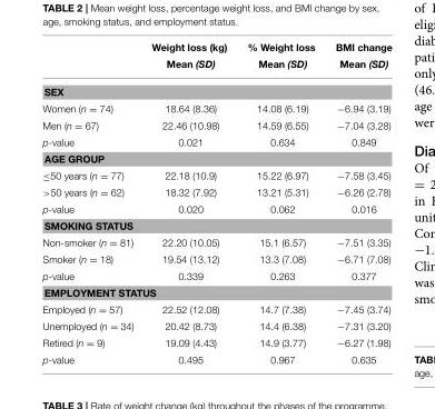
<table><thead><tr><td rowspan="2"></td><td rowspan="2">Weight loss (kg) Mean (SD)</td><td rowspan="2">% Weight loss Mean (SD)</td><td rowspan="2">BMI change Mean (SD)</td></tr><tr></tr></thead><tbody><tr><td colspan="4">SEX</td></tr><tr><td>Women (n = 74)</td><td>18.64 (8.36)</td><td>14.08 (6.19)</td><td>−6.94 (3.19)</td></tr><tr><td>Men (n = 67)</td><td>22.46 (10.98)</td><td>14.59 (6.55)</td><td>−7.04 (3.28)</td></tr><tr><td>p-value</td><td>0.021</td><td>0.634</td><td>0.849</td></tr><tr><td colspan="4">AGE GROUP</td></tr><tr><td>≤50 years (n = 77)</td><td>22.18 (10.9)</td><td>15.22 (6.97)</td><td>−7.58 (3.45)</td></tr><tr><td>&gt;50 years (n = 62)</td><td>18.32 (7.92)</td><td>13.21 (5.31)</td><td>−6.26 (2.78)</td></tr><tr><td>p-value</td><td>0.020</td><td>0.062</td><td>0.016</td></tr><tr><td colspan="4">SMOKING STATUS</td></tr><tr><td>Non-smoker (n = 81)</td><td>22.20 (10.05)</td><td>15.1 (6.57)</td><td>−7.51 (3.35)</td></tr><tr><td>Smoker (n = 18)</td><td>19.54 (13.12)</td><td>13.3 (7.08)</td><td>−6.71 (7.08)</td></tr><tr><td>p-value</td><td>0.339</td><td>0.263</td><td>0.377</td></tr><tr><td colspan="4">EMPLOYMENT STATUS</td></tr><tr><td>Employed (n = 57)</td><td>22.52 (12.08)</td><td>14.7 (7.38)</td><td>−7.45 (3.74)</td></tr><tr><td>Unemployed (n = 34)</td><td>20.42 (8.73)</td><td>14.4 (6.38)</td><td>−7.31 (3.20)</td></tr><tr><td>Retired (n = 9)</td><td>19.09 (4.43)</td><td>14.9 (3.77)</td><td>−6.27 (1.98)</td></tr><tr><td>p-value</td><td>0.495</td><td>0.967</td><td>0.635</td></tr></tbody></table>